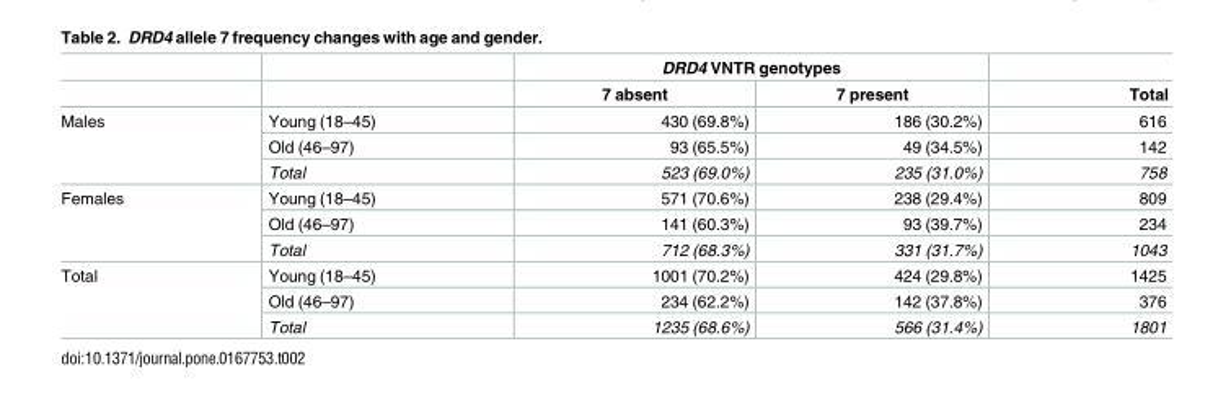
<table><thead><tr><td rowspan="2"></td><td rowspan="2"></td><td colspan="2">DRD4 VNTR genotypes</td><td rowspan="2">Total</td></tr><tr><td>7 absent</td><td>7 present</td></tr></thead><tbody><tr><td rowspan="3">Males</td><td>Young (18–45)</td><td>430 (69.8%)</td><td>186 (30.2%)</td><td>616</td></tr><tr><td>Old (46–97)</td><td>93 (65.5%)</td><td>49 (34.5%)</td><td>142</td></tr><tr><td>Total</td><td>523 (69.0%)</td><td>235 (31.0%)</td><td>758</td></tr><tr><td rowspan="3">Females</td><td>Young (18–45)</td><td>571 (70.6%)</td><td>238 (29.4%)</td><td>809</td></tr><tr><td>Old (46–97)</td><td>141 (60.3%)</td><td>93 (39.7%)</td><td>234</td></tr><tr><td>Total</td><td>712 (68.3%)</td><td>331 (31.7%)</td><td>1043</td></tr><tr><td rowspan="3">Total</td><td>Young (18–45)</td><td>1001 (70.2%)</td><td>424 (29.8%)</td><td>1425</td></tr><tr><td>Old (46–97)</td><td>234 (62.2%)</td><td>142 (37.8%)</td><td>376</td></tr><tr><td>Total</td><td>1235 (68.6%)</td><td>566 (31.4%)</td><td>1801</td></tr></tbody></table>